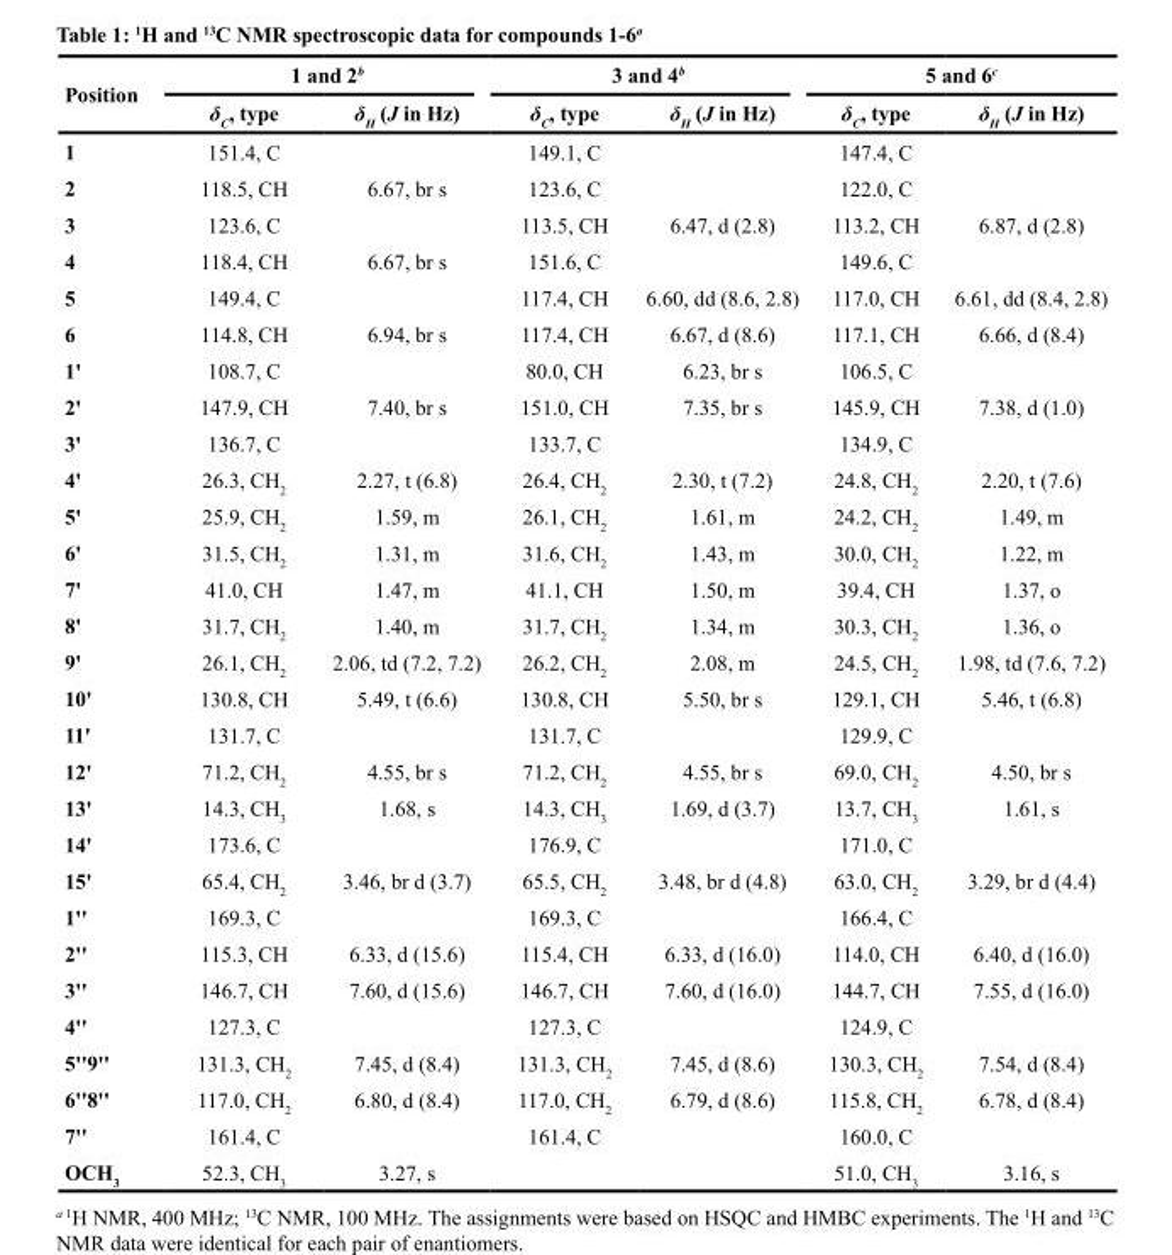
<table><thead><tr><td rowspan="2">Position</td><td colspan="2">1 and 2<sup>b</sup></td><td colspan="2">3 and 4<sup>b</sup></td><td colspan="2">5 and 6<sup>c</sup></td></tr><tr><td>δ<sub>C</sub>, type</td><td>δ<sub>H</sub> (J in Hz)</td><td>δ<sub>C</sub>, type</td><td>δ<sub>H</sub> (J in Hz)</td><td>δ<sub>C</sub>, type</td><td>δ<sub>H</sub> (J in Hz)</td></tr></thead><tbody><tr><td>1</td><td>151.4, C</td><td></td><td>149.1, C</td><td></td><td>147.4, C</td><td></td></tr><tr><td>2</td><td>118.5, CH</td><td>6.67, br s</td><td>123.6, C</td><td></td><td>122.0, C</td><td></td></tr><tr><td>3</td><td>123.6, C</td><td></td><td>113.5, CH</td><td>6.47, d (2.8)</td><td>113.2, CH</td><td>6.87, d (2.8)</td></tr><tr><td>4</td><td>118.4, CH</td><td>6.67, br s</td><td>151.6, C</td><td></td><td>149.6, C</td><td></td></tr><tr><td>5</td><td>149.4, C</td><td></td><td>117.4, CH</td><td>6.60, dd (8.6, 2.8)</td><td>117.0, CH</td><td>6.61, dd (8.4, 2.8)</td></tr><tr><td>6</td><td>114.8, CH</td><td>6.94, br s</td><td>117.4, CH</td><td>6.67, d (8.6)</td><td>117.1, CH</td><td>6.66, d (8.4)</td></tr><tr><td>1&#x27;</td><td>108.7, C</td><td></td><td>80.0, CH</td><td>6.23, br s</td><td>106.5, C</td><td></td></tr><tr><td>2&#x27;</td><td>147.9, CH</td><td>7.40, br s</td><td>151.0, CH</td><td>7.35, br s</td><td>145.9, CH</td><td>7.38, d (1.0)</td></tr><tr><td>3&#x27;</td><td>136.7, C</td><td></td><td>133.7, C</td><td></td><td>134.9, C</td><td></td></tr><tr><td>4&#x27;</td><td>26.3, CH<sub>2</sub></td><td>2.27, t (6.8)</td><td>26.4, CH<sub>2</sub></td><td>2.30, t (7.2)</td><td>24.8, CH<sub>2</sub></td><td>2.20, t (7.6)</td></tr><tr><td>5&#x27;</td><td>25.9, CH<sub>2</sub></td><td>1.59, m</td><td>26.1, CH<sub>2</sub></td><td>1.61, m</td><td>24.2, CH<sub>2</sub></td><td>1.49, m</td></tr><tr><td>6&#x27;</td><td>31.5, CH<sub>2</sub></td><td>1.31, m</td><td>31.6, CH<sub>2</sub></td><td>1.43, m</td><td>30.0, CH<sub>2</sub></td><td>1.22, m</td></tr><tr><td>7&#x27;</td><td>41.0, CH</td><td>1.47, m</td><td>41.1, CH</td><td>1.50, m</td><td>39.4, CH</td><td>1.37, o</td></tr><tr><td>8&#x27;</td><td>31.7, CH<sub>2</sub></td><td>1.40, m</td><td>31.7, CH<sub>2</sub></td><td>1.34, m</td><td>30.3, CH<sub>2</sub></td><td>1.36, o</td></tr><tr><td>9&#x27;</td><td>26.1, CH<sub>2</sub></td><td>2.06, td (7.2, 7.2)</td><td>26.2, CH<sub>2</sub></td><td>2.08, m</td><td>24.5, CH<sub>2</sub></td><td>1.98, td (7.6, 7.2)</td></tr><tr><td>10&#x27;</td><td>130.8, CH</td><td>5.49, t (6.6)</td><td>130.8, CH</td><td>5.50, br s</td><td>129.1, CH</td><td>5.46, t (6.8)</td></tr><tr><td>11&#x27;</td><td>131.7, C</td><td></td><td>131.7, C</td><td></td><td>129.9, C</td><td></td></tr><tr><td>12&#x27;</td><td>71.2, CH<sub>2</sub></td><td>4.55, br s</td><td>71.2, CH<sub>2</sub></td><td>4.55, br s</td><td>69.0, CH<sub>2</sub></td><td>4.50, br s</td></tr><tr><td>13&#x27;</td><td>14.3, CH<sub>3</sub></td><td>1.68, s</td><td>14.3, CH<sub>3</sub></td><td>1.69, d (3.7)</td><td>13.7, CH<sub>3</sub></td><td>1.61, s</td></tr><tr><td>14&#x27;</td><td>173.6, C</td><td></td><td>176.9, C</td><td></td><td>171.0, C</td><td></td></tr><tr><td>15&#x27;</td><td>65.4, CH<sub>2</sub></td><td>3.46, br d (3.7)</td><td>65.5, CH<sub>2</sub></td><td>3.48, br d (4.8)</td><td>63.0, CH<sub>2</sub></td><td>3.29, br d (4.4)</td></tr><tr><td>1&#x27;&#x27;</td><td>169.3, C</td><td></td><td>169.3, C</td><td></td><td>166.4, C</td><td></td></tr><tr><td>2&#x27;&#x27;</td><td>115.3, CH</td><td>6.33, d (15.6)</td><td>115.4, CH</td><td>6.33, d (16.0)</td><td>114.0, CH</td><td>6.40, d (16.0)</td></tr><tr><td>3&#x27;&#x27;</td><td>146.7, CH</td><td>7.60, d (15.6)</td><td>146.7, CH</td><td>7.60, d (16.0)</td><td>144.7, CH</td><td>7.55, d (16.0)</td></tr><tr><td>4&#x27;&#x27;</td><td>127.3, C</td><td></td><td>127.3, C</td><td></td><td>124.9, C</td><td></td></tr><tr><td>5&#x27;&#x27;9&#x27;&#x27;</td><td>131.3, CH<sub>2</sub></td><td>7.45, d (8.4)</td><td>131.3, CH<sub>2</sub></td><td>7.45, d (8.6)</td><td>130.3, CH<sub>2</sub></td><td>7.54, d (8.4)</td></tr><tr><td>6&#x27;&#x27;8&#x27;&#x27;</td><td>117.0, CH<sub>2</sub></td><td>6.80, d (8.4)</td><td>117.0, CH<sub>2</sub></td><td>6.79, d (8.6)</td><td>115.8, CH<sub>2</sub></td><td>6.78, d (8.4)</td></tr><tr><td>7&#x27;&#x27;</td><td>161.4, C</td><td></td><td>161.4, C</td><td></td><td>160.0, C</td><td></td></tr><tr><td>OCH<sub>3</sub></td><td>52.3, CH<sub>3</sub></td><td>3.27, s</td><td></td><td></td><td>51.0, CH<sub>3</sub></td><td>3.16, s</td></tr></tbody></table>